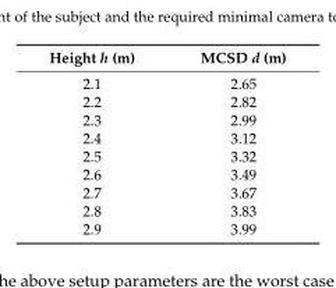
<table><thead><tr><td>Height h (m)</td><td>MCSD d (m)</td></tr></thead><tbody><tr><td>2.1</td><td>2.65</td></tr><tr><td>2.2</td><td>2.82</td></tr><tr><td>2.3</td><td>2.99</td></tr><tr><td>2.4</td><td>3.12</td></tr><tr><td>2.5</td><td>3.32</td></tr><tr><td>2.6</td><td>3.49</td></tr><tr><td>2.7</td><td>3.67</td></tr><tr><td>2.8</td><td>3.83</td></tr><tr><td>2.9</td><td>3.99</td></tr></tbody></table>